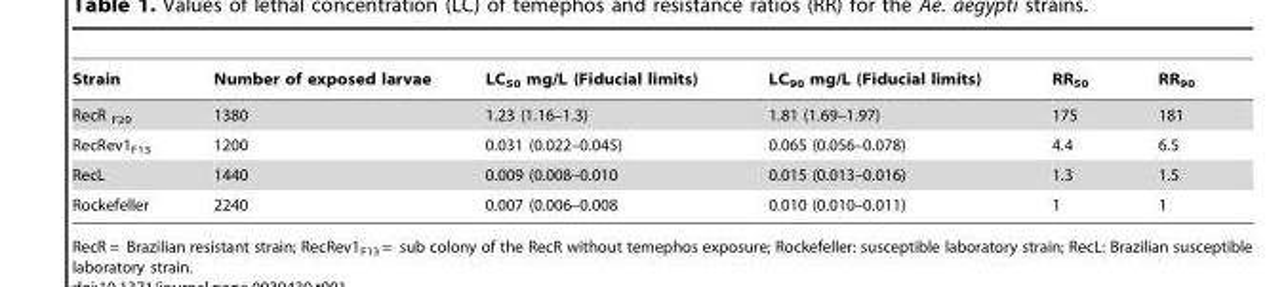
<table><thead><tr><td>Strain</td><td>Number of exposed larvae</td><td>LC<sub>50</sub> mg/L (Fiducial limits)</td><td>LC<sub>90</sub> mg/L (Fiducial limits)</td><td>RR<sub>50</sub></td><td>RR<sub>90</sub></td></tr></thead><tbody><tr><td>RecR <sub>F20</sub></td><td>1380</td><td>1.23 (1.16–1.3)</td><td>1.81 (1.69–1.97)</td><td>175</td><td>181</td></tr><tr><td>RecRev1<sub>F13</sub></td><td>1200</td><td>0.031 (0.022–0.045)</td><td>0.065 (0.056–0.078)</td><td>4.4</td><td>6.5</td></tr><tr><td>RecL</td><td>1440</td><td>0.009 (0.008–0.010</td><td>0.015 (0.013–0.016)</td><td>1.3</td><td>1.5</td></tr><tr><td>Rockefeller</td><td>2240</td><td>0.007 (0.006–0.008</td><td>0.010 (0.010–0.011)</td><td>1</td><td>1</td></tr></tbody></table>